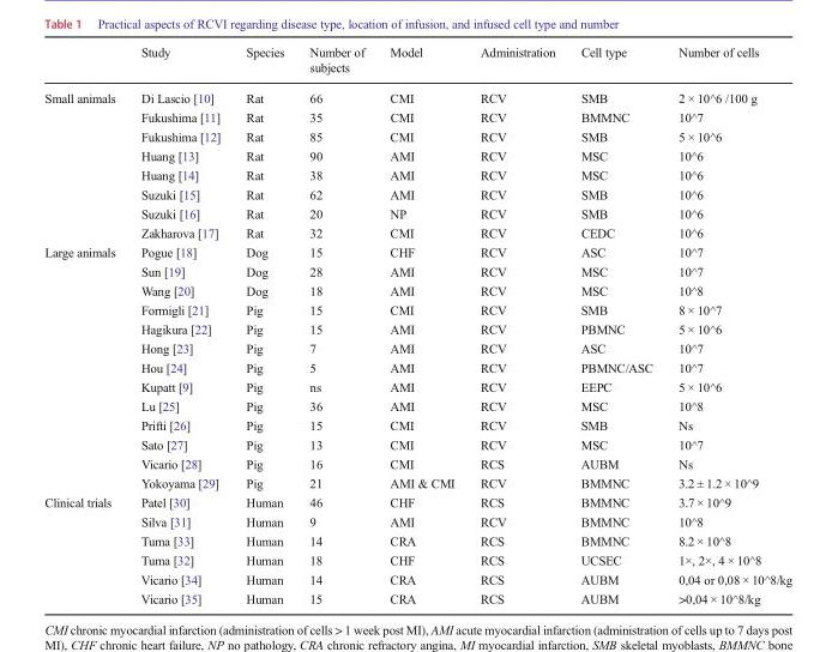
<table><thead><tr><td></td><td>Study</td><td>Species</td><td>Number of subjects</td><td>Model</td><td>Administration</td><td>Cell type</td><td>Number of cells</td></tr></thead><tbody><tr><td rowspan="8">Small animals</td><td>Di Lascio [10]</td><td>Rat</td><td>66</td><td>CMI</td><td>RCV</td><td>SMB</td><td>2 × 10^6 /100 g</td></tr><tr><td>Fukushima [11]</td><td>Rat</td><td>35</td><td>CMI</td><td>RCV</td><td>BMMNC</td><td>10^7</td></tr><tr><td>Fukushima [12]</td><td>Rat</td><td>85</td><td>CMI</td><td>RCV</td><td>SMB</td><td>5 × 10^6</td></tr><tr><td>Huang [13]</td><td>Rat</td><td>90</td><td>AMI</td><td>RCV</td><td>MSC</td><td>10^6</td></tr><tr><td>Huang [14]</td><td>Rat</td><td>38</td><td>AMI</td><td>RCV</td><td>MSC</td><td>10^6</td></tr><tr><td>Suzuki [15]</td><td>Rat</td><td>62</td><td>AMI</td><td>RCV</td><td>SMB</td><td>10^6</td></tr><tr><td>Suzuki [16]</td><td>Rat</td><td>20</td><td>NP</td><td>RCV</td><td>SMB</td><td>10^6</td></tr><tr><td>Zakharova [17]</td><td>Rat</td><td>32</td><td>CMI</td><td>RCV</td><td>CEDC</td><td>10^6</td></tr><tr><td rowspan="13">Large animals</td><td>Pogue [18]</td><td>Dog</td><td>15</td><td>CHF</td><td>RCV</td><td>ASC</td><td>10^7</td></tr><tr><td>Sun [19]</td><td>Dog</td><td>28</td><td>AMI</td><td>RCV</td><td>MSC</td><td>10^7</td></tr><tr><td>Wang [20]</td><td>Dog</td><td>18</td><td>AMI</td><td>RCV</td><td>MSC</td><td>10^8</td></tr><tr><td>Formigli [21]</td><td>Pig</td><td>15</td><td>CMI</td><td>RCV</td><td>SMB</td><td>8 × 10^7</td></tr><tr><td>Hagikura [22]</td><td>Pig</td><td>15</td><td>AMI</td><td>RCV</td><td>PBMNC</td><td>5 × 10^6</td></tr><tr><td>Hong [23]</td><td>Pig</td><td>7</td><td>AMI</td><td>RCV</td><td>ASC</td><td>10^7</td></tr><tr><td>Hou [24]</td><td>Pig</td><td>5</td><td>AMI</td><td>RCV</td><td>PBMNC/ASC</td><td>10^7</td></tr><tr><td>Kupatt [9]</td><td>Pig</td><td>ns</td><td>AMI</td><td>RCV</td><td>EEPC</td><td>5 × 10^6</td></tr><tr><td>Lu [25]</td><td>Pig</td><td>36</td><td>AMI</td><td>RCV</td><td>MSC</td><td>10^8</td></tr><tr><td>Prifti [26]</td><td>Pig</td><td>15</td><td>CMI</td><td>RCV</td><td>SMB</td><td>Ns</td></tr><tr><td>Sato [27]</td><td>Pig</td><td>13</td><td>CMI</td><td>RCV</td><td>MSC</td><td>10^7</td></tr><tr><td>Vicario [28]</td><td>Pig</td><td>16</td><td>CMI</td><td>RCS</td><td>AUBM</td><td>Ns</td></tr><tr><td>Yokoyama [29]</td><td>Pig</td><td>21</td><td>AMI &amp; CMI</td><td>RCV</td><td>BMMNC</td><td>3.2 ± 1.2 × 10^9</td></tr><tr><td rowspan="6">Clinical trials</td><td>Patel [30]</td><td>Human</td><td>46</td><td>CHF</td><td>RCS</td><td>BMMNC</td><td>3.7 × 10^9</td></tr><tr><td>Silva [31]</td><td>Human</td><td>9</td><td>AMI</td><td>RCV</td><td>BMMNC</td><td>10^8</td></tr><tr><td>Tuma [33]</td><td>Human</td><td>14</td><td>CRA</td><td>RCS</td><td>BMMNC</td><td>8.2 × 10^8</td></tr><tr><td>Tuma [32]</td><td>Human</td><td>18</td><td>CHF</td><td>RCS</td><td>UCSEC</td><td>1×, 2×, 4 × 10^8</td></tr><tr><td>Vicario [34]</td><td>Human</td><td>14</td><td>CRA</td><td>RCS</td><td>AUBM</td><td>0,04 or 0,08 × 10^8/kg</td></tr><tr><td>Vicario [35]</td><td>Human</td><td>15</td><td>CRA</td><td>RCS</td><td>AUBM</td><td>&gt;0,04 × 10^8/kg</td></tr></tbody></table>